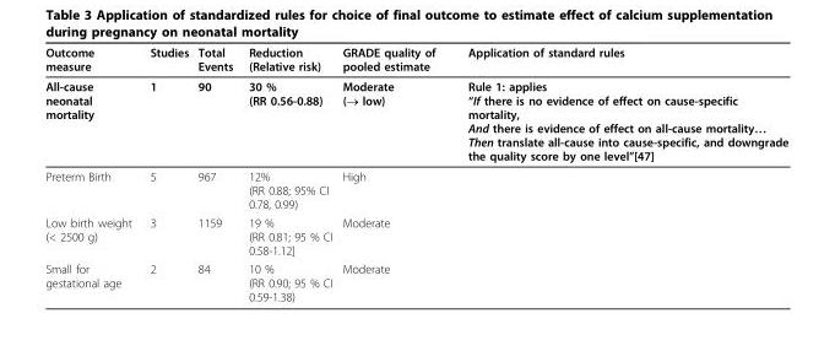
<table><thead><tr><td>Outcome measure</td><td>Studies</td><td>Total Events</td><td>Reduction (Relative risk)</td><td>GRADE quality of pooled estimate</td><td>Application of standard rules</td></tr></thead><tbody><tr><td>All-cause neonatal mortality</td><td>1</td><td>90</td><td>30 % (RR 0.56-0.88)</td><td>Moderate (→ low)</td><td>Rule 1: applies “If there is no evidence of effect on cause-specific mortality, And there is evidence of effect on all-cause mortality… Then translate all-cause into cause-specific, and downgrade the quality score by one level”[47]</td></tr><tr><td>Preterm Birth</td><td>5</td><td>967</td><td>12% (RR 0.88; 95% CI 0.78, 0.99)</td><td>High</td><td></td></tr><tr><td>Low birth weight (&lt; 2500 g)</td><td>3</td><td>1159</td><td>19 % (RR 0.81; 95 % CI 0.58-1.12]</td><td>Moderate</td><td></td></tr><tr><td>Small for gestational age</td><td>2</td><td>84</td><td>10 % (RR 0.90; 95 % CI 0.59-1.38)</td><td>Moderate</td><td></td></tr></tbody></table>